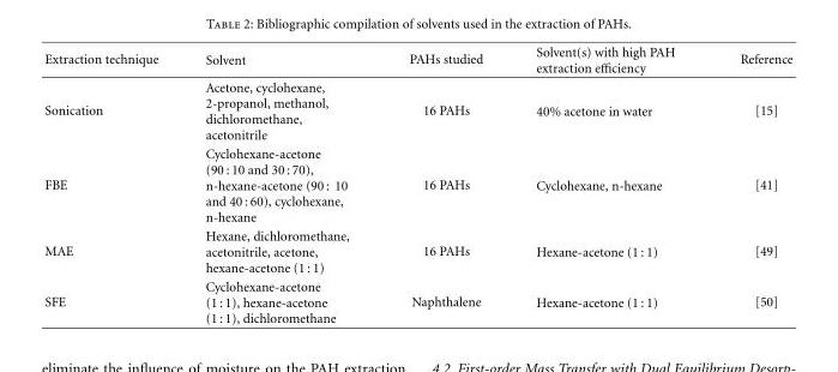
<table><thead><tr><td>Extraction technique</td><td>Solvent</td><td>PAHs studied</td><td>Solvent(s) with high PAH extraction efficiency</td><td>Reference</td></tr></thead><tbody><tr><td>Sonication</td><td>Acetone, cyclohexane, 2-propanol, methanol, dichloromethane, acetonitrile</td><td>16 PAHs</td><td>40% acetone in water</td><td>[15]</td></tr><tr><td>FBE</td><td>Cyclohexane-acetone (90 : 10 and 30 : 70), n-hexane-acetone (90 : 10 and 40 : 60), cyclohexane, n-hexane</td><td>16 PAHs</td><td>Cyclohexane, n-hexane</td><td>[41]</td></tr><tr><td>MAE</td><td>Hexane, dichloromethane, acetonitrile, acetone, hexane-acetone (1 : 1)</td><td>16 PAHs</td><td>Hexane-acetone (1 : 1)</td><td>[49]</td></tr><tr><td>SFE</td><td>Cyclohexane-acetone (1 : 1), hexane-acetone (1 : 1), dichloromethane</td><td>Naphthalene</td><td>Hexane-acetone (1 : 1)</td><td>[50]</td></tr></tbody></table>